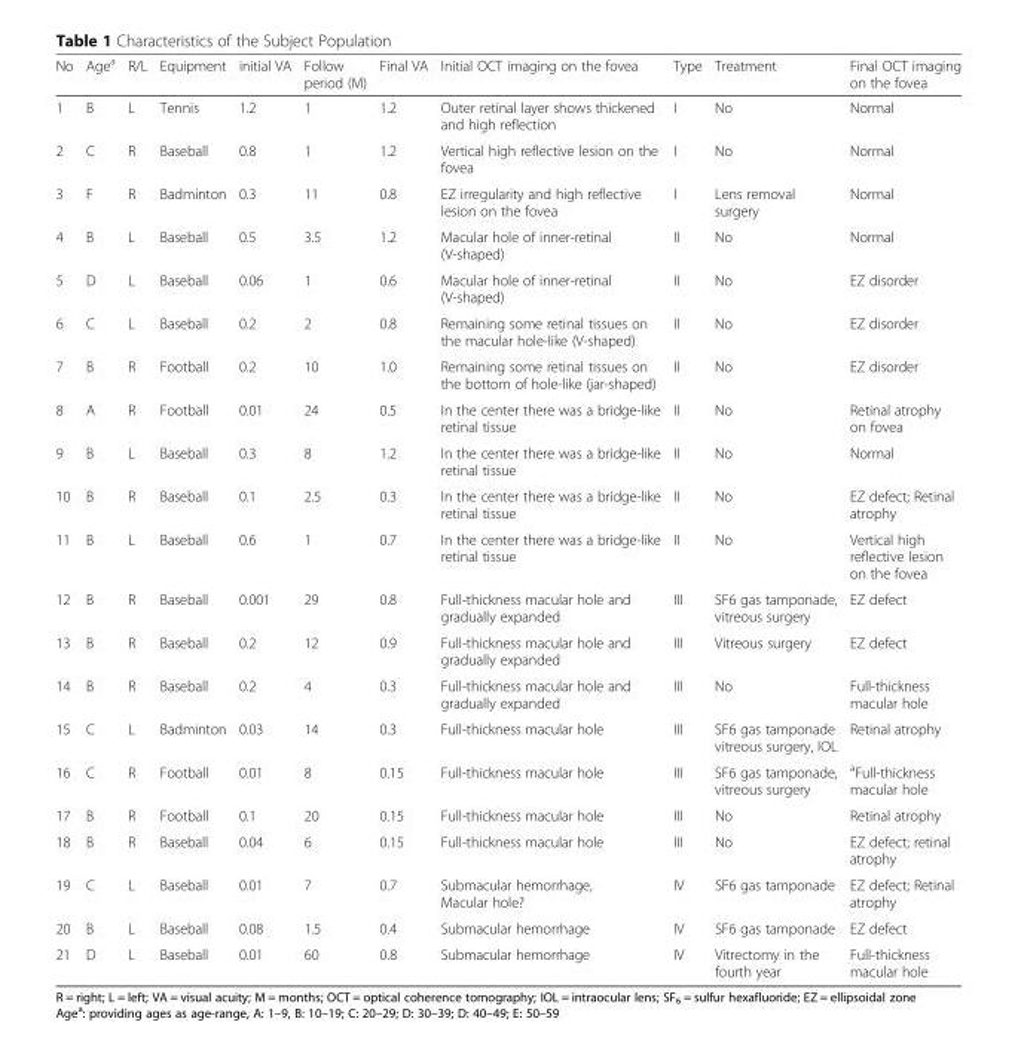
<table><thead><tr><td>No</td><td>Age<sup>a</sup></td><td>R/L</td><td>Equipment</td><td>initial VA</td><td>Follow period (M)</td><td>Final VA</td><td>Initial OCT imaging on the fovea</td><td>Type</td><td>Treatment</td><td>Final OCT imaging on the fovea</td></tr></thead><tbody><tr><td>1</td><td>B</td><td>L</td><td>Tennis</td><td>1.2</td><td>1</td><td>1.2</td><td>Outer retinal layer shows thickened and high reflection</td><td>I</td><td>No</td><td>Normal</td></tr><tr><td>2</td><td>C</td><td>R</td><td>Baseball</td><td>0.8</td><td>1</td><td>1.2</td><td>Vertical high reflective lesion on the fovea</td><td>I</td><td>No</td><td>Normal</td></tr><tr><td>3</td><td>F</td><td>R</td><td>Badminton</td><td>0.3</td><td>11</td><td>0.8</td><td>EZ irregularity and high reflective lesion on the fovea</td><td>I</td><td>Lens removal surgery</td><td>Normal</td></tr><tr><td>4</td><td>B</td><td>L</td><td>Baseball</td><td>0.5</td><td>3.5</td><td>1.2</td><td>Macular hole of inner-retinal (V-shaped)</td><td>II</td><td>No</td><td>Normal</td></tr><tr><td>5</td><td>D</td><td>L</td><td>Baseball</td><td>0.06</td><td>1</td><td>0.6</td><td>Macular hole of inner-retinal (V-shaped)</td><td>II</td><td>No</td><td>EZ disorder</td></tr><tr><td>6</td><td>C</td><td>L</td><td>Baseball</td><td>0.2</td><td>2</td><td>0.8</td><td>Remaining some retinal tissues on the macular hole-like (V-shaped)</td><td>II</td><td>No</td><td>EZ disorder</td></tr><tr><td>7</td><td>B</td><td>R</td><td>Football</td><td>0.2</td><td>10</td><td>1.0</td><td>Remaining some retinal tissues on the bottom of hole-like (jar-shaped)</td><td>II</td><td>No</td><td>EZ disorder</td></tr><tr><td>8</td><td>A</td><td>R</td><td>Football</td><td>0.01</td><td>24</td><td>0.5</td><td>In the center there was a bridge-like retinal tissue</td><td>II</td><td>No</td><td>Retinal atrophy on fovea</td></tr><tr><td>9</td><td>B</td><td>L</td><td>Baseball</td><td>0.3</td><td>8</td><td>1.2</td><td>In the center there was a bridge-like retinal tissue</td><td>II</td><td>No</td><td>Normal</td></tr><tr><td>10</td><td>B</td><td>R</td><td>Baseball</td><td>0.1</td><td>2.5</td><td>0.3</td><td>In the center there was a bridge-like retinal tissue</td><td>II</td><td>No</td><td>EZ defect; Retinal atrophy</td></tr><tr><td>11</td><td>B</td><td>L</td><td>Baseball</td><td>0.6</td><td>1</td><td>0.7</td><td>In the center there was a bridge-like retinal tissue</td><td>II</td><td>No</td><td>Vertical high reflective lesion on the fovea</td></tr><tr><td>12</td><td>B</td><td>R</td><td>Baseball</td><td>0.001</td><td>29</td><td>0.8</td><td>Full-thickness macular hole and gradually expanded</td><td>III</td><td>SF6 gas tamponade, vitreous surgery</td><td>EZ defect</td></tr><tr><td>13</td><td>B</td><td>R</td><td>Baseball</td><td>0.2</td><td>12</td><td>0.9</td><td>Full-thickness macular hole and gradually expanded</td><td>III</td><td>Vitreous surgery</td><td>EZ defect</td></tr><tr><td>14</td><td>B</td><td>R</td><td>Baseball</td><td>0.2</td><td>4</td><td>0.3</td><td>Full-thickness macular hole and gradually expanded</td><td>III</td><td>No</td><td>Full-thickness macular hole</td></tr><tr><td>15</td><td>C</td><td>L</td><td>Badminton</td><td>0.03</td><td>14</td><td>0.3</td><td>Full-thickness macular hole</td><td>III</td><td>SF6 gas tamponade vitreous surgery, IOL</td><td>Retinal atrophy</td></tr><tr><td>16</td><td>C</td><td>R</td><td>Football</td><td>0.01</td><td>8</td><td>0.15</td><td>Full-thickness macular hole</td><td>III</td><td>SF6 gas tamponade, vitreous surgery</td><td><sup>a</sup>Full-thickness macular hole</td></tr><tr><td>17</td><td>B</td><td>R</td><td>Football</td><td>0.1</td><td>20</td><td>0.15</td><td>Full-thickness macular hole</td><td>III</td><td>No</td><td>Retinal atrophy</td></tr><tr><td>18</td><td>B</td><td>R</td><td>Baseball</td><td>0.04</td><td>6</td><td>0.15</td><td>Full-thickness macular hole</td><td>III</td><td>No</td><td>EZ defect; retinal atrophy</td></tr><tr><td>19</td><td>C</td><td>L</td><td>Baseball</td><td>0.01</td><td>7</td><td>0.7</td><td>Submacular hemorrhage, Macular hole?</td><td>IV</td><td>SF6 gas tamponade</td><td>EZ defect; Retinal atrophy</td></tr><tr><td>20</td><td>B</td><td>L</td><td>Baseball</td><td>0.08</td><td>1.5</td><td>0.4</td><td>Submacular hemorrhage</td><td>IV</td><td>SF6 gas tamponade</td><td>EZ defect</td></tr><tr><td>21</td><td>D</td><td>L</td><td>Baseball</td><td>0.01</td><td>60</td><td>0.8</td><td>Submacular hemorrhage</td><td>IV</td><td>Vitrectomy in the fourth year</td><td>Full-thickness macular hole</td></tr></tbody></table>